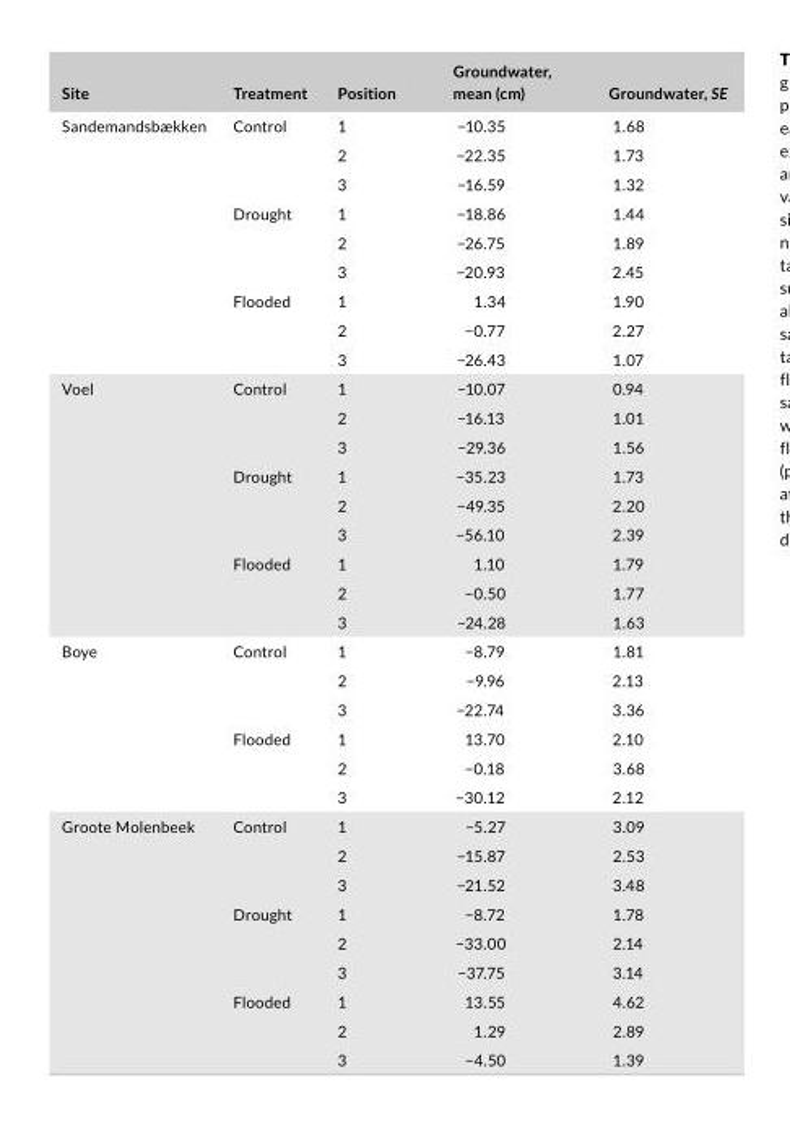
<table><thead><tr><td>Site</td><td>Treatment</td><td>Position</td><td>Groundwater, mean (cm)</td><td>Groundwater, SE</td></tr></thead><tbody><tr><td rowspan="9">Sandemandsbækken</td><td rowspan="3">Control</td><td>1</td><td>−10.35</td><td>1.68</td></tr><tr><td>2</td><td>−22.35</td><td>1.73</td></tr><tr><td>3</td><td>−16.59</td><td>1.32</td></tr><tr><td rowspan="3">Drought</td><td>1</td><td>−18.86</td><td>1.44</td></tr><tr><td>2</td><td>−26.75</td><td>1.89</td></tr><tr><td>3</td><td>−20.93</td><td>2.45</td></tr><tr><td rowspan="3">Flooded</td><td>1</td><td>1.34</td><td>1.90</td></tr><tr><td>2</td><td>−0.77</td><td>2.27</td></tr><tr><td>3</td><td>−26.43</td><td>1.07</td></tr><tr><td rowspan="9">Voel</td><td rowspan="3">Control</td><td>1</td><td>−10.07</td><td>0.94</td></tr><tr><td>2</td><td>−16.13</td><td>1.01</td></tr><tr><td>3</td><td>−29.36</td><td>1.56</td></tr><tr><td rowspan="3">Drought</td><td>1</td><td>−35.23</td><td>1.73</td></tr><tr><td>2</td><td>−49.35</td><td>2.20</td></tr><tr><td>3</td><td>−56.10</td><td>2.39</td></tr><tr><td rowspan="3">Flooded</td><td>1</td><td>1.10</td><td>1.79</td></tr><tr><td>2</td><td>−0.50</td><td>1.77</td></tr><tr><td>3</td><td>−24.28</td><td>1.63</td></tr><tr><td rowspan="6">Boye</td><td rowspan="3">Control</td><td>1</td><td>−8.79</td><td>1.81</td></tr><tr><td>2</td><td>−9.96</td><td>2.13</td></tr><tr><td>3</td><td>−22.74</td><td>3.36</td></tr><tr><td rowspan="3">Flooded</td><td>1</td><td>13.70</td><td>2.10</td></tr><tr><td>2</td><td>−0.18</td><td>3.68</td></tr><tr><td>3</td><td>−30.12</td><td>2.12</td></tr><tr><td rowspan="9">Groote Molenbeek</td><td rowspan="3">Control</td><td>1</td><td>−5.27</td><td>3.09</td></tr><tr><td>2</td><td>−15.87</td><td>2.53</td></tr><tr><td>3</td><td>−21.52</td><td>3.48</td></tr><tr><td rowspan="3">Drought</td><td>1</td><td>−8.72</td><td>1.78</td></tr><tr><td>2</td><td>−33.00</td><td>2.14</td></tr><tr><td>3</td><td>−37.75</td><td>3.14</td></tr><tr><td rowspan="3">Flooded</td><td>1</td><td>13.55</td><td>4.62</td></tr><tr><td>2</td><td>1.29</td><td>2.89</td></tr><tr><td>3</td><td>−4.50</td><td>1.39</td></tr></tbody></table>